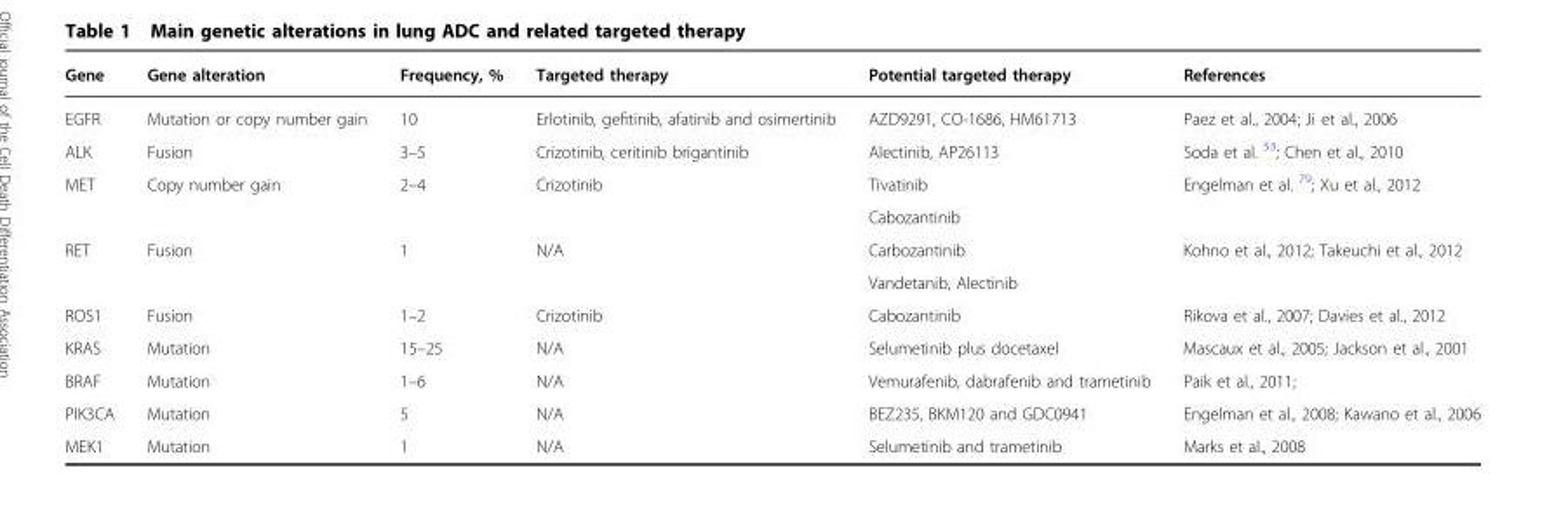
<table><thead><tr><td>Gene</td><td>Gene alteration</td><td>Frequency, %</td><td>Targeted therapy</td><td>Potential targeted therapy</td><td>References</td></tr></thead><tbody><tr><td>EGFR</td><td>Mutation or copy number gain</td><td>10</td><td>Erlotinib, gefitinib, afatinib and osimertinib</td><td>AZD9291, CO-1686, HM61713</td><td>Paez et al., 2004; Ji et al., 2006</td></tr><tr><td>ALK</td><td>Fusion</td><td>3–5</td><td>Crizotinib, ceritinib brigantinib</td><td>Alectinib, AP26113</td><td>Soda et al. <sup>53</sup>; Chen et al., 2010</td></tr><tr><td rowspan="2">MET</td><td>Copy number gain</td><td>2–4</td><td>Crizotinib</td><td>Tivatinib</td><td>Engelman et al. <sup>79</sup>; Xu et al., 2012</td></tr><tr><td></td><td></td><td></td><td>Cabozantinib</td><td></td></tr><tr><td rowspan="2">RET</td><td>Fusion</td><td>1</td><td>N/A</td><td>Carbozantinib</td><td>Kohno et al., 2012; Takeuchi et al., 2012</td></tr><tr><td></td><td></td><td></td><td>Vandetanib, Alectinib</td><td></td></tr><tr><td>ROS1</td><td>Fusion</td><td>1–2</td><td>Crizotinib</td><td>Cabozantinib</td><td>Rikova et al., 2007; Davies et al., 2012</td></tr><tr><td>KRAS</td><td>Mutation</td><td>15–25</td><td>N/A</td><td>Selumetinib plus docetaxel</td><td>Mascaux et al., 2005; Jackson et al., 2001</td></tr><tr><td>BRAF</td><td>Mutation</td><td>1–6</td><td>N/A</td><td>Vemurafenib, dabrafenib and trametinib</td><td>Paik et al., 2011;</td></tr><tr><td>PIK3CA</td><td>Mutation</td><td>5</td><td>N/A</td><td>BEZ235, BKM120 and GDC0941</td><td>Engelman et al., 2008; Kawano et al., 2006</td></tr><tr><td>MEK1</td><td>Mutation</td><td>1</td><td>N/A</td><td>Selumetinib and trametinib</td><td>Marks et al., 2008</td></tr></tbody></table>